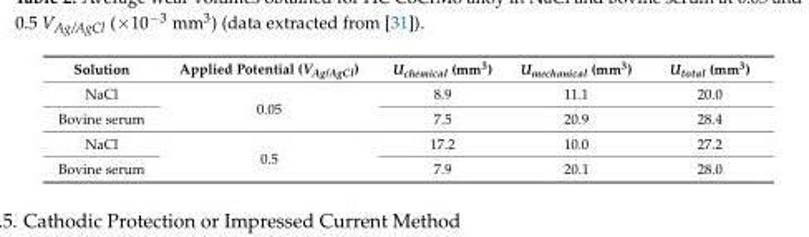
<table><thead><tr><td>Solution</td><td>Applied Potential (V<sub>Ag/AgCl</sub>)</td><td>U<sub>chemical</sub> (mm<sup>3</sup>)</td><td>U<sub>mechanical</sub> (mm<sup>3</sup>)</td><td>U<sub>total</sub> (mm<sup>3</sup>)</td></tr></thead><tbody><tr><td>NaCl</td><td rowspan="2">0.05</td><td>8.9</td><td>11.1</td><td>20.0</td></tr><tr><td>Bovine serum</td><td>7.5</td><td>20.9</td><td>28.4</td></tr><tr><td>NaCl</td><td rowspan="2">0.5</td><td>17.2</td><td>10.0</td><td>27.2</td></tr><tr><td>Bovine serum</td><td>7.9</td><td>20.1</td><td>28.0</td></tr></tbody></table>